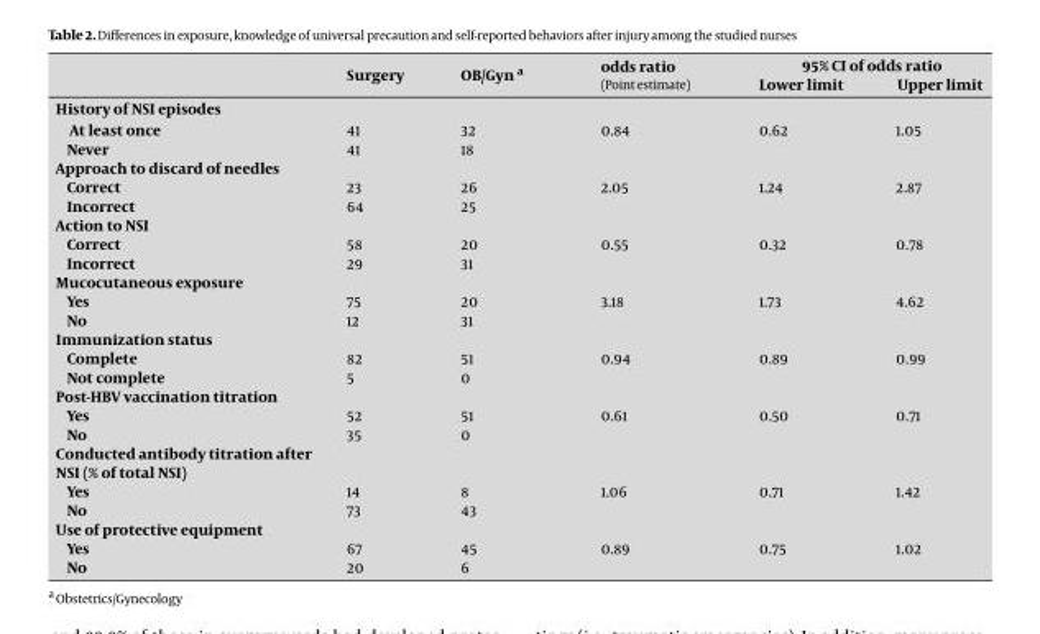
<table><thead><tr><td rowspan="2"></td><td rowspan="2">Surgery</td><td rowspan="2">OB/Gyn a</td><td rowspan="2">odds ratio (Point estimate)</td><td colspan="2">95% CI of odds ratio</td></tr><tr><td>Lower limit</td><td>Upper limit</td></tr></thead><tbody><tr><td colspan="6">History of NSI episodes</td></tr><tr><td>At least once</td><td>41</td><td>32</td><td>0.84</td><td>0.62</td><td>1.05</td></tr><tr><td>Never</td><td>41</td><td>18</td><td></td><td></td><td></td></tr><tr><td colspan="6">Approach to discard of needles</td></tr><tr><td>Correct</td><td>23</td><td>26</td><td>2.05</td><td>1.24</td><td>2.87</td></tr><tr><td>Incorrect</td><td>64</td><td>25</td><td></td><td></td><td></td></tr><tr><td colspan="6">Action to NSI</td></tr><tr><td>Correct</td><td>58</td><td>20</td><td>0.55</td><td>0.32</td><td>0.78</td></tr><tr><td>Incorrect</td><td>29</td><td>31</td><td></td><td></td><td></td></tr><tr><td colspan="6">Mucocutaneous exposure</td></tr><tr><td>Yes</td><td>75</td><td>20</td><td>3.18</td><td>1.73</td><td>4.62</td></tr><tr><td>No</td><td>12</td><td>31</td><td></td><td></td><td></td></tr><tr><td colspan="6">Immunization status</td></tr><tr><td>Complete</td><td>82</td><td>51</td><td>0.94</td><td>0.89</td><td>0.99</td></tr><tr><td>Not complete</td><td>5</td><td>0</td><td></td><td></td><td></td></tr><tr><td colspan="6">Post-HBV vaccination titration</td></tr><tr><td>Yes</td><td>52</td><td>51</td><td>0.61</td><td>0.50</td><td>0.71</td></tr><tr><td>No</td><td>35</td><td>0</td><td></td><td></td><td></td></tr><tr><td colspan="6">Conducted antibody titration after NSI (% of total NSI)</td></tr><tr><td>Yes</td><td>14</td><td>8</td><td>1.06</td><td>0.71</td><td>1.42</td></tr><tr><td>No</td><td>73</td><td>43</td><td></td><td></td><td></td></tr><tr><td colspan="6">Use of protective equipment</td></tr><tr><td>Yes</td><td>67</td><td>45</td><td>0.89</td><td>0.75</td><td>1.02</td></tr><tr><td>No</td><td>20</td><td>6</td><td></td><td></td><td></td></tr></tbody></table>